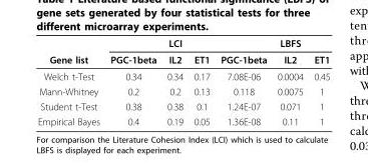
<table><thead><tr><td rowspan="2">Gene list</td><td rowspan="2">PGC-1beta</td><td rowspan="2">LCI IL2</td><td rowspan="2">ET1</td><td rowspan="2">PGC-1beta</td><td rowspan="2">LBFS IL2</td><td rowspan="2">ET1</td></tr><tr></tr></thead><tbody><tr><td>Welch t-Test</td><td>0.34</td><td>0.34</td><td>0.17</td><td>7.08E-06</td><td>0.0004</td><td>0.45</td></tr><tr><td>Mann-Whitney</td><td>0.2</td><td>0.2</td><td>0.13</td><td>0.118</td><td>0.0075</td><td>1</td></tr><tr><td>Student t-Test</td><td>0.38</td><td>0.38</td><td>0.1</td><td>1.24E-07</td><td>0.071</td><td>1</td></tr><tr><td>Empirical Bayes</td><td>0.4</td><td>0.19</td><td>0.05</td><td>1.36E-08</td><td>0.11</td><td>1</td></tr></tbody></table>